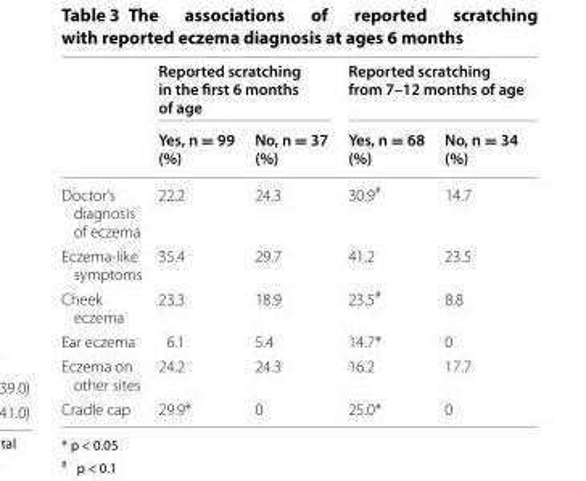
<table><thead><tr><td rowspan="2"></td><td colspan="2">Reported scratching in the first 6 months of age</td><td colspan="2">Reported scratching from 7–12 months of age</td></tr><tr><td>Yes, n = 99 (%)</td><td>No, n = 37 (%)</td><td>Yes, n = 68 (%)</td><td>No, n = 34 (%)</td></tr></thead><tbody><tr><td>Doctor’s diagnosis of eczema</td><td>22.2</td><td>24.3</td><td>30.9<sup>#</sup></td><td>14.7</td></tr><tr><td>Eczema‑like symptoms</td><td>35.4</td><td>29.7</td><td>41.2</td><td>23.5</td></tr><tr><td>Cheek eczema</td><td>23.3</td><td>18.9</td><td>23.5<sup>#</sup></td><td>8.8</td></tr><tr><td>Ear eczema</td><td>6.1</td><td>5.4</td><td>14.7*</td><td>0</td></tr><tr><td>Eczema on other sites</td><td>24.2</td><td>24.3</td><td>16.2</td><td>17.7</td></tr><tr><td>Cradle cap</td><td>29.9*</td><td>0</td><td>25.0*</td><td>0</td></tr></tbody></table>